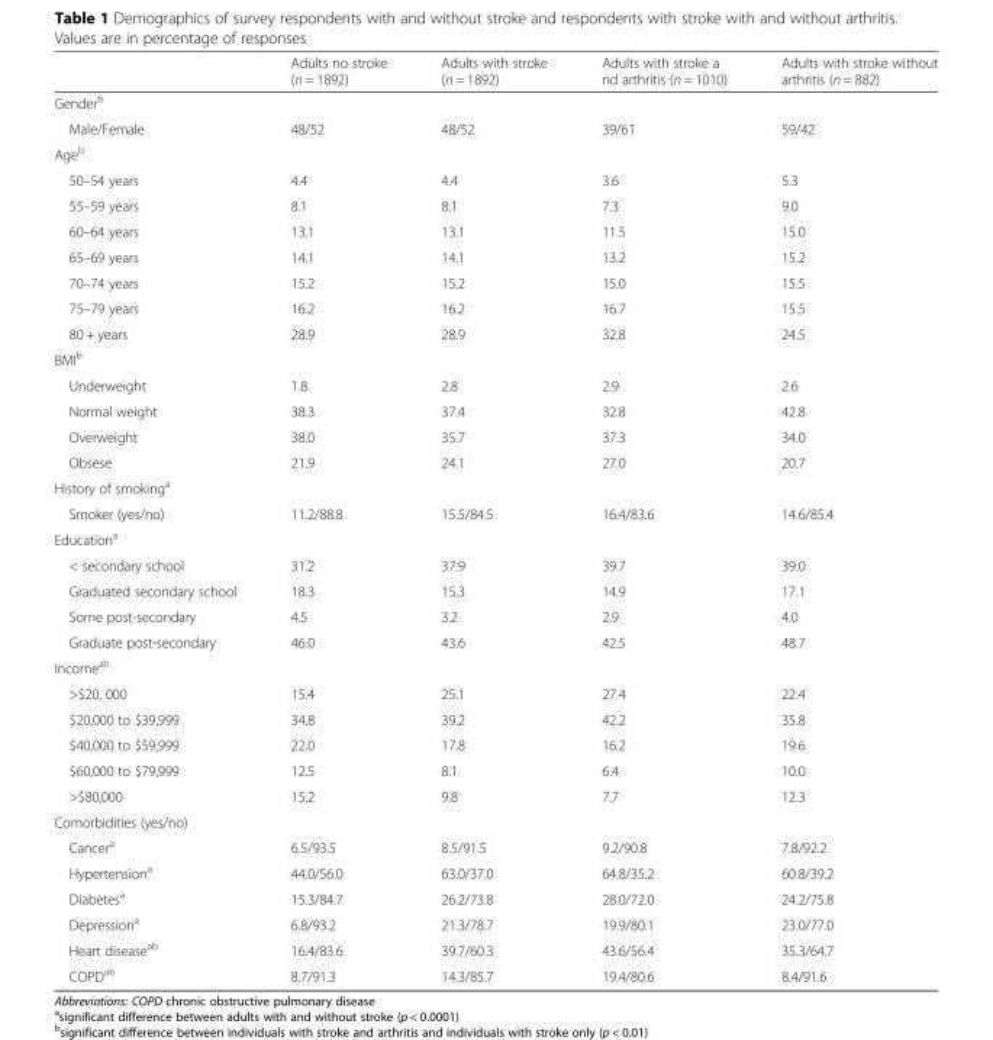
<table><thead><tr><td></td><td>Adults no stroke (n = 1892)</td><td>Adults with stroke (n = 1892)</td><td>Adults with stroke a nd arthritis (n = 1010)</td><td>Adults with stroke without arthritis (n = 882)</td></tr></thead><tbody><tr><td colspan="5">Gender<sup>b</sup></td></tr><tr><td>Male/Female</td><td>48/52</td><td>48/52</td><td>39/61</td><td>59/42</td></tr><tr><td colspan="5">Age<sup>b</sup></td></tr><tr><td>50–54 years</td><td>4.4</td><td>4.4</td><td>3.6</td><td>5.3</td></tr><tr><td>55–59 years</td><td>8.1</td><td>8.1</td><td>7.3</td><td>9.0</td></tr><tr><td>60–64 years</td><td>13.1</td><td>13.1</td><td>11.5</td><td>15.0</td></tr><tr><td>65–69 years</td><td>14.1</td><td>14.1</td><td>13.2</td><td>15.2</td></tr><tr><td>70–74 years</td><td>15.2</td><td>15.2</td><td>15.0</td><td>15.5</td></tr><tr><td>75–79 years</td><td>16.2</td><td>16.2</td><td>16.7</td><td>15.5</td></tr><tr><td>80 + years</td><td>28.9</td><td>28.9</td><td>32.8</td><td>24.5</td></tr><tr><td colspan="5">BMI<sup>b</sup></td></tr><tr><td>Underweight</td><td>1.8</td><td>2.8</td><td>2.9</td><td>2.6</td></tr><tr><td>Normal weight</td><td>38.3</td><td>37.4</td><td>32.8</td><td>42.8</td></tr><tr><td>Overweight</td><td>38.0</td><td>35.7</td><td>37.3</td><td>34.0</td></tr><tr><td>Obsese</td><td>21.9</td><td>24.1</td><td>27.0</td><td>20.7</td></tr><tr><td colspan="5">History of smoking<sup>a</sup></td></tr><tr><td>Smoker (yes/no)</td><td>11.2/88.8</td><td>15.5/84.5</td><td>16.4/83.6</td><td>14.6/85.4</td></tr><tr><td colspan="5">Education<sup>a</sup></td></tr><tr><td>&lt; secondary school</td><td>31.2</td><td>37.9</td><td>39.7</td><td>39.0</td></tr><tr><td>Graduated secondary school</td><td>18.3</td><td>15.3</td><td>14.9</td><td>17.1</td></tr><tr><td>Some post-secondary</td><td>4.5</td><td>3.2</td><td>2.9</td><td>4.0</td></tr><tr><td>Graduate post-secondary</td><td>46.0</td><td>43.6</td><td>42.5</td><td>48.7</td></tr><tr><td colspan="5">Income<sup>ab</sup></td></tr><tr><td>&gt;$20, 000</td><td>15.4</td><td>25.1</td><td>27.4</td><td>22.4</td></tr><tr><td>$20,000 to $39,999</td><td>34.8</td><td>39.2</td><td>42.2</td><td>35.8</td></tr><tr><td>$40,000 to $59,999</td><td>22.0</td><td>17.8</td><td>16.2</td><td>19.6</td></tr><tr><td>$60,000 to $79,999</td><td>12.5</td><td>8.1</td><td>6.4</td><td>10.0</td></tr><tr><td>&gt;$80,000</td><td>15.2</td><td>9.8</td><td>7.7</td><td>12.3</td></tr><tr><td colspan="5">Comorbidities (yes/no)</td></tr><tr><td>Cancer<sup>a</sup></td><td>6.5/93.5</td><td>8.5/91.5</td><td>9.2/90.8</td><td>7.8/92.2</td></tr><tr><td>Hypertension<sup>a</sup></td><td>44.0/56.0</td><td>63.0/37.0</td><td>64.8/35.2</td><td>60.8/39.2</td></tr><tr><td>Diabetes<sup>a</sup></td><td>15.3/84.7</td><td>26.2/73.8</td><td>28.0/72.0</td><td>24.2/75.8</td></tr><tr><td>Depression<sup>a</sup></td><td>6.8/93.2</td><td>21.3/78.7</td><td>19.9/80.1</td><td>23.0/77.0</td></tr><tr><td>Heart disease<sup>ab</sup></td><td>16.4/83.6</td><td>39.7/60.3</td><td>43.6/56.4</td><td>35.3/64.7</td></tr><tr><td>COPD<sup>ab</sup></td><td>8.7/91.3</td><td>14.3/85.7</td><td>19.4/80.6</td><td>8.4/91.6</td></tr></tbody></table>